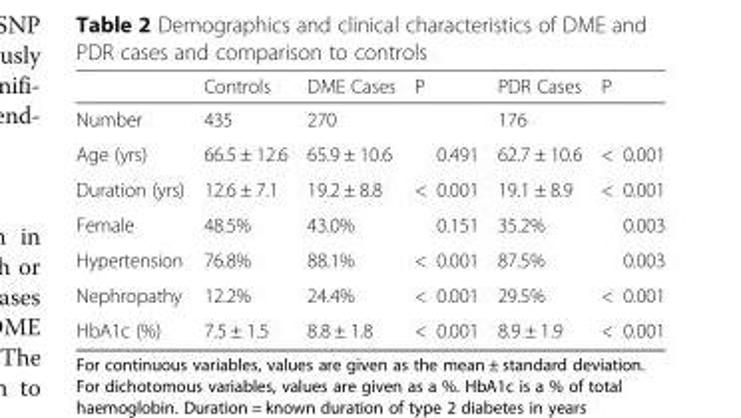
<table><thead><tr><td></td><td>Controls</td><td>DME Cases</td><td>P</td><td>PDR Cases</td><td>P</td></tr></thead><tbody><tr><td>Number</td><td>435</td><td>270</td><td></td><td>176</td><td></td></tr><tr><td>Age (yrs)</td><td>66.5 ± 12.6</td><td>65.9 ± 10.6</td><td>0.491</td><td>62.7 ± 10.6</td><td>&lt; 0.001</td></tr><tr><td>Duration (yrs)</td><td>12.6 ± 7.1</td><td>19.2 ± 8.8</td><td>&lt; 0.001</td><td>19.1 ± 8.9</td><td>&lt; 0.001</td></tr><tr><td>Female</td><td>48.5%</td><td>43.0%</td><td>0.151</td><td>35.2%</td><td>0.003</td></tr><tr><td>Hypertension</td><td>76.8%</td><td>88.1%</td><td>&lt; 0.001</td><td>87.5%</td><td>0.003</td></tr><tr><td>Nephropathy</td><td>12.2%</td><td>24.4%</td><td>&lt; 0.001</td><td>29.5%</td><td>&lt; 0.001</td></tr><tr><td>HbA1c (%)</td><td>7.5 ± 1.5</td><td>8.8 ± 1.8</td><td>&lt; 0.001</td><td>8.9 ± 1.9</td><td>&lt; 0.001</td></tr></tbody></table>